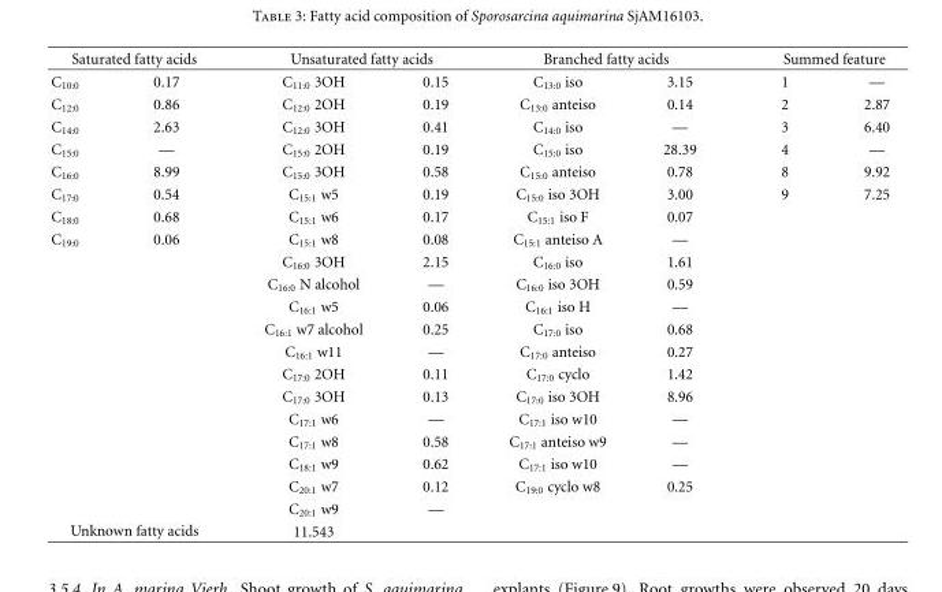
<table><thead><tr><td colspan="2">Saturated fatty acids</td><td colspan="2">Unsaturated fatty acids</td><td colspan="2">Branched fatty acids</td><td colspan="2">Summed feature</td></tr><tr><td>C<sub>10:0</sub></td><td>0.17</td><td>C<sub>11:0</sub> 3OH</td><td>0.15</td><td>C<sub>13:0</sub> iso</td><td>3.15</td><td>1</td><td>—</td></tr></thead><tbody><tr><td>C<sub>12:0</sub></td><td>0.86</td><td>C<sub>12:0</sub> 2OH</td><td>0.19</td><td>C<sub>13:0</sub> anteiso</td><td>0.14</td><td>2</td><td>2.87</td></tr><tr><td>C<sub>14:0</sub></td><td>2.63</td><td>C<sub>12:0</sub> 3OH</td><td>0.41</td><td>C<sub>14:0</sub> iso</td><td>—</td><td>3</td><td>6.40</td></tr><tr><td>C<sub>15:0</sub></td><td>—</td><td>C<sub>15:0</sub> 2OH</td><td>0.19</td><td>C<sub>15:0</sub> iso</td><td>28.39</td><td>4</td><td>—</td></tr><tr><td>C<sub>16:0</sub></td><td>8.99</td><td>C<sub>15:0</sub> 3OH</td><td>0.58</td><td>C<sub>15:0</sub> anteiso</td><td>0.78</td><td>8</td><td>9.92</td></tr><tr><td>C<sub>17:0</sub></td><td>0.54</td><td>C<sub>15:1</sub> w5</td><td>0.19</td><td>C<sub>15:0</sub> iso 3OH</td><td>3.00</td><td>9</td><td>7.25</td></tr><tr><td>C<sub>18:0</sub></td><td>0.68</td><td>C<sub>15:1</sub> w6</td><td>0.17</td><td>C<sub>15:1</sub> iso F</td><td>0.07</td><td></td><td></td></tr><tr><td rowspan="13">C<sub>19:0</sub></td><td>0.06</td><td>C<sub>15:1</sub> w8</td><td>0.08</td><td>C<sub>15:1</sub> anteiso A</td><td>—</td><td></td><td></td></tr><tr><td></td><td>C<sub>16:0</sub> 3OH</td><td>2.15</td><td>C<sub>16:0</sub> iso</td><td>1.61</td><td></td><td></td></tr><tr><td></td><td>C<sub>16:0</sub> N alcohol</td><td>—</td><td>C<sub>16:0</sub> iso 3OH</td><td>0.59</td><td></td><td></td></tr><tr><td></td><td>C<sub>16:1</sub> w5</td><td>0.06</td><td>C<sub>16:1</sub> iso H</td><td>—</td><td></td><td></td></tr><tr><td></td><td>C<sub>16:1</sub> w7 alcohol</td><td>0.25</td><td>C<sub>17:0</sub> iso</td><td>0.68</td><td></td><td></td></tr><tr><td></td><td>C<sub>16:1</sub> w11</td><td>—</td><td>C<sub>17:0</sub> anteiso</td><td>0.27</td><td></td><td></td></tr><tr><td></td><td>C<sub>17:0</sub> 2OH</td><td>0.11</td><td>C<sub>17:0</sub> cyclo</td><td>1.42</td><td></td><td></td></tr><tr><td></td><td>C<sub>17:0</sub> 3OH</td><td>0.13</td><td>C<sub>17:0</sub> iso 3OH</td><td>8.96</td><td></td><td></td></tr><tr><td></td><td>C<sub>17:1</sub> w6</td><td>—</td><td>C<sub>17:1</sub> iso w10</td><td>—</td><td></td><td></td></tr><tr><td></td><td>C<sub>17:1</sub> w8</td><td>0.58</td><td>C<sub>17:1</sub> anteiso w9</td><td>—</td><td></td><td></td></tr><tr><td></td><td>C<sub>18:1</sub> w9</td><td>0.62</td><td>C<sub>17:1</sub> iso w10</td><td>—</td><td></td><td></td></tr><tr><td></td><td>C<sub>20:1</sub> w7</td><td>0.12</td><td>C<sub>19:0</sub> cyclo w8</td><td>0.25</td><td></td><td></td></tr><tr><td></td><td>C<sub>20:1</sub> w9</td><td>—</td><td></td><td></td><td></td><td></td></tr><tr><td colspan="2">Unknown fatty acids</td><td>11.543</td><td></td><td></td><td></td><td></td><td></td></tr></tbody></table>